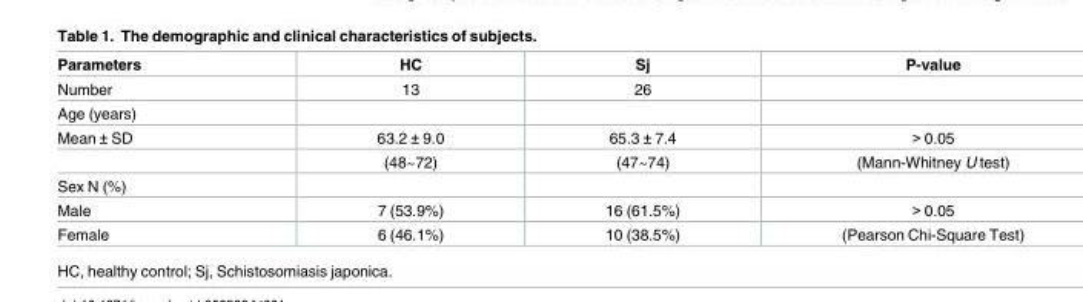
<table><thead><tr><td>Parameters</td><td>HC</td><td>Sj</td><td>P-value</td></tr></thead><tbody><tr><td>Number</td><td>13</td><td>26</td><td></td></tr><tr><td colspan="4">Age (years)</td></tr><tr><td rowspan="2">Mean ± SD</td><td>63.2 ± 9.0</td><td>65.3 ± 7.4</td><td>&gt; 0.05</td></tr><tr><td>(48~72)</td><td>(47~74)</td><td>(Mann-Whitney U test)</td></tr><tr><td colspan="4">Sex N (%)</td></tr><tr><td>Male</td><td>7 (53.9%)</td><td>16 (61.5%)</td><td>&gt; 0.05</td></tr><tr><td>Female</td><td>6 (46.1%)</td><td>10 (38.5%)</td><td>(Pearson Chi-Square Test)</td></tr></tbody></table>